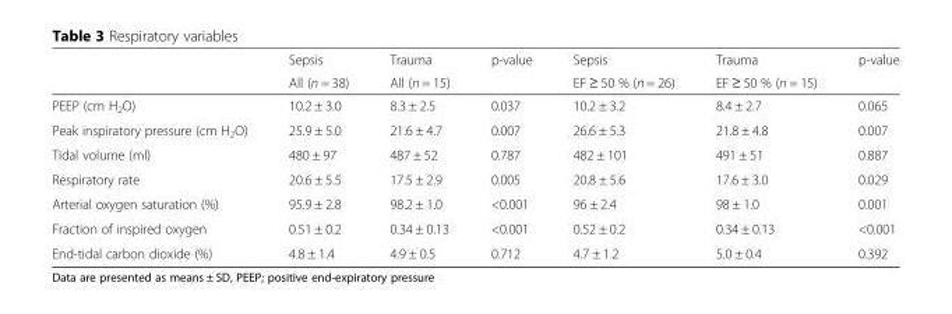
<table><thead><tr><td rowspan="2"></td><td rowspan="2">Sepsis All (n = 38)</td><td rowspan="2">Trauma All (n = 15)</td><td rowspan="2">p-value</td><td rowspan="2">Sepsis EF ≥ 50 % (n = 26)</td><td rowspan="2">Trauma EF ≥ 50 % (n = 15)</td><td rowspan="2">p-value</td></tr><tr></tr></thead><tbody><tr><td>PEEP (cm H<sub>2</sub>O)</td><td>10.2 ± 3.0</td><td>8.3 ± 2.5</td><td>0.037</td><td>10.2 ± 3.2</td><td>8.4 ± 2.7</td><td>0.065</td></tr><tr><td>Peak inspiratory pressure (cm H<sub>2</sub>O)</td><td>25.9 ± 5.0</td><td>21.6 ± 4.7</td><td>0.007</td><td>26.6 ± 5.3</td><td>21.8 ± 4.8</td><td>0.007</td></tr><tr><td>Tidal volume (ml)</td><td>480 ± 97</td><td>487 ± 52</td><td>0.787</td><td>482 ± 101</td><td>491 ± 51</td><td>0.887</td></tr><tr><td>Respiratory rate</td><td>20.6 ± 5.5</td><td>17.5 ± 2.9</td><td>0.005</td><td>20.8 ± 5.6</td><td>17.6 ± 3.0</td><td>0.029</td></tr><tr><td>Arterial oxygen saturation (%)</td><td>95.9 ± 2.8</td><td>98.2 ± 1.0</td><td>&lt;0.001</td><td>96 ± 2.4</td><td>98 ± 1.0</td><td>0.001</td></tr><tr><td>Fraction of inspired oxygen</td><td>0.51 ± 0.2</td><td>0.34 ± 0.13</td><td>&lt;0.001</td><td>0.52 ± 0.2</td><td>0.34 ± 0.13</td><td>&lt;0.001</td></tr><tr><td>End-tidal carbon dioxide (%)</td><td>4.8 ± 1.4</td><td>4.9 ± 0.5</td><td>0.712</td><td>4.7 ± 1.2</td><td>5.0 ± 0.4</td><td>0.392</td></tr></tbody></table>